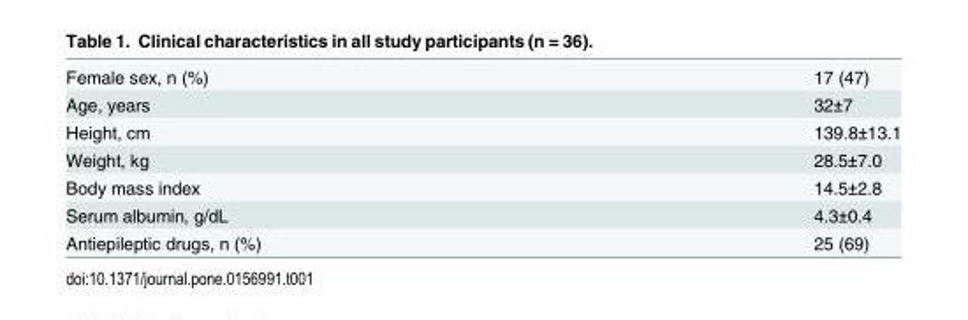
<table><tbody><tr><td>Female sex, n (%)</td><td>17 (47)</td></tr><tr><td>Age, years</td><td>32±7</td></tr><tr><td>Height, cm</td><td>139.8±13.1</td></tr><tr><td>Weight, kg</td><td>28.5±7.0</td></tr><tr><td>Body mass index</td><td>14.5±2.8</td></tr><tr><td>Serum albumin, g/dL</td><td>4.3±0.4</td></tr><tr><td>Antiepileptic drugs, n (%)</td><td>25 (69)</td></tr></tbody></table>